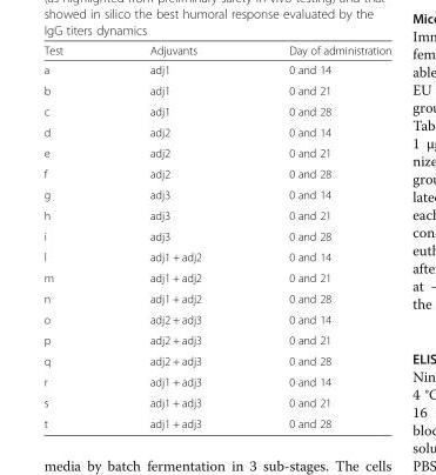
<table><thead><tr><td>Test</td><td>Adjuvants</td><td>Day of administration</td></tr></thead><tbody><tr><td>a</td><td>adj1</td><td>0 and 14</td></tr><tr><td>b</td><td>adj1</td><td>0 and 21</td></tr><tr><td>c</td><td>adj1</td><td>0 and 28</td></tr><tr><td>d</td><td>adj2</td><td>0 and 14</td></tr><tr><td>e</td><td>adj2</td><td>0 and 21</td></tr><tr><td>f</td><td>adj2</td><td>0 and 28</td></tr><tr><td>g</td><td>adj3</td><td>0 and 14</td></tr><tr><td>h</td><td>adj3</td><td>0 and 21</td></tr><tr><td>i</td><td>adj3</td><td>0 and 28</td></tr><tr><td>l</td><td>adj1 + adj2</td><td>0 and 14</td></tr><tr><td>m</td><td>adj1 + adj2</td><td>0 and 21</td></tr><tr><td>n</td><td>adj1 + adj2</td><td>0 and 28</td></tr><tr><td>o</td><td>adj2 + adj3</td><td>0 and 14</td></tr><tr><td>p</td><td>adj2 + adj3</td><td>0 and 21</td></tr><tr><td>q</td><td>adj2 + adj3</td><td>0 and 28</td></tr><tr><td>r</td><td>adj1 + adj3</td><td>0 and 14</td></tr><tr><td>s</td><td>adj1 + adj3</td><td>0 and 21</td></tr><tr><td>t</td><td>adj1 + adj3</td><td>0 and 28</td></tr></tbody></table>